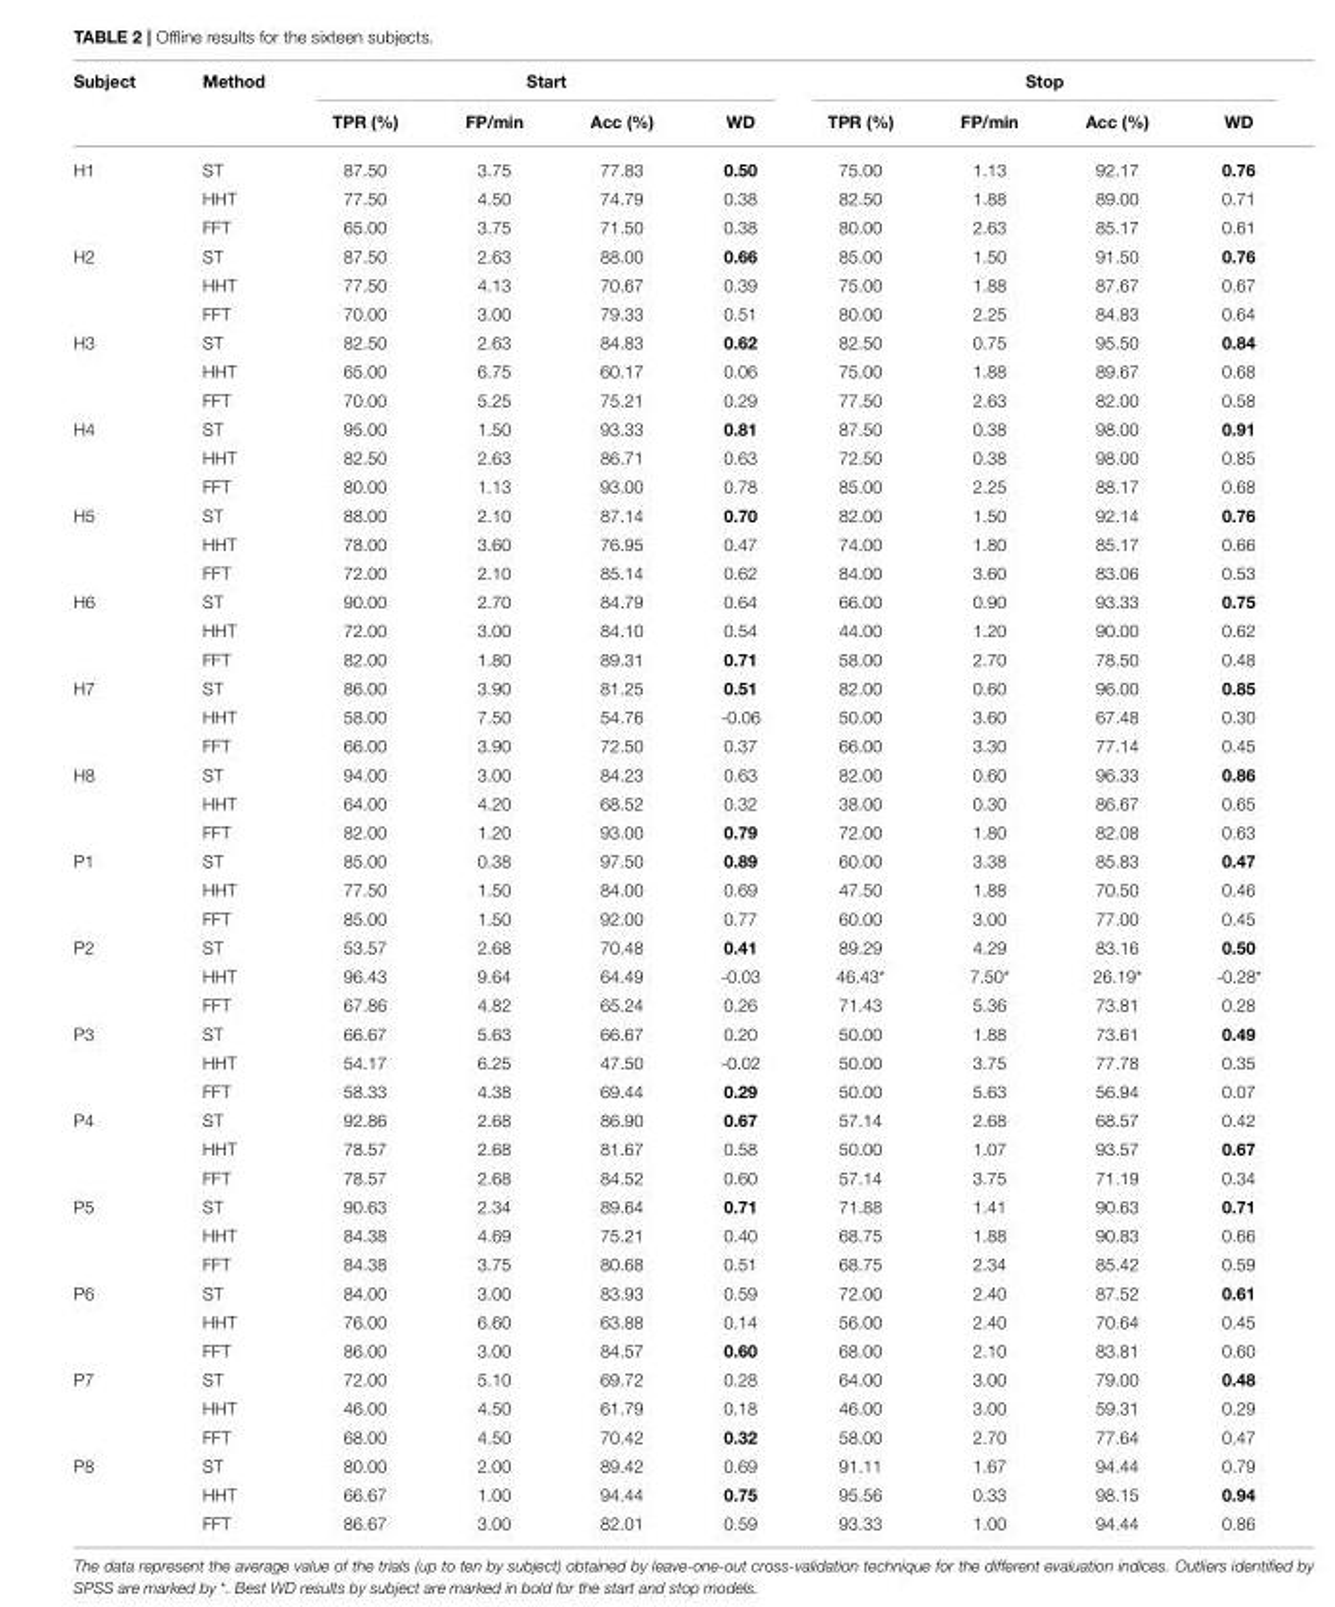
<table><thead><tr><td rowspan="2">Subject</td><td rowspan="2">Method</td><td colspan="4">Start</td><td colspan="4">Stop</td></tr><tr><td>TPR (%)</td><td>FP/min</td><td>Acc (%)</td><td>WD</td><td>TPR (%)</td><td>FP/min</td><td>Acc (%)</td><td>WD</td></tr></thead><tbody><tr><td rowspan="3">H1</td><td>ST</td><td>87.50</td><td>3.75</td><td>77.83</td><td>0.50</td><td>75.00</td><td>1.13</td><td>92.17</td><td>0.76</td></tr><tr><td>HHT</td><td>77.50</td><td>4.50</td><td>74.79</td><td>0.38</td><td>82.50</td><td>1.88</td><td>89.00</td><td>0.71</td></tr><tr><td>FFT</td><td>65.00</td><td>3.75</td><td>71.50</td><td>0.38</td><td>80.00</td><td>2.63</td><td>85.17</td><td>0.61</td></tr><tr><td rowspan="3">H2</td><td>ST</td><td>87.50</td><td>2.63</td><td>88.00</td><td>0.66</td><td>85.00</td><td>1.50</td><td>91.50</td><td>0.76</td></tr><tr><td>HHT</td><td>77.50</td><td>4.13</td><td>70.67</td><td>0.39</td><td>75.00</td><td>1.88</td><td>87.67</td><td>0.67</td></tr><tr><td>FFT</td><td>70.00</td><td>3.00</td><td>79.33</td><td>0.51</td><td>80.00</td><td>2.25</td><td>84.83</td><td>0.64</td></tr><tr><td rowspan="3">H3</td><td>ST</td><td>82.50</td><td>2.63</td><td>84.83</td><td>0.62</td><td>82.50</td><td>0.75</td><td>95.50</td><td>0.84</td></tr><tr><td>HHT</td><td>65.00</td><td>6.75</td><td>60.17</td><td>0.06</td><td>75.00</td><td>1.88</td><td>89.67</td><td>0.68</td></tr><tr><td>FFT</td><td>70.00</td><td>5.25</td><td>75.21</td><td>0.29</td><td>77.50</td><td>2.63</td><td>82.00</td><td>0.58</td></tr><tr><td rowspan="3">H4</td><td>ST</td><td>95.00</td><td>1.50</td><td>93.33</td><td>0.81</td><td>87.50</td><td>0.38</td><td>98.00</td><td>0.91</td></tr><tr><td>HHT</td><td>82.50</td><td>2.63</td><td>86.71</td><td>0.63</td><td>72.50</td><td>0.38</td><td>98.00</td><td>0.85</td></tr><tr><td>FFT</td><td>80.00</td><td>1.13</td><td>93.00</td><td>0.78</td><td>85.00</td><td>2.25</td><td>88.17</td><td>0.68</td></tr><tr><td rowspan="3">H5</td><td>ST</td><td>88.00</td><td>2.10</td><td>87.14</td><td>0.70</td><td>82.00</td><td>1.50</td><td>92.14</td><td>0.76</td></tr><tr><td>HHT</td><td>78.00</td><td>3.60</td><td>76.95</td><td>0.47</td><td>74.00</td><td>1.80</td><td>85.17</td><td>0.66</td></tr><tr><td>FFT</td><td>72.00</td><td>2.10</td><td>85.14</td><td>0.62</td><td>84.00</td><td>3.60</td><td>83.06</td><td>0.53</td></tr><tr><td rowspan="3">H6</td><td>ST</td><td>90.00</td><td>2.70</td><td>84.79</td><td>0.64</td><td>66.00</td><td>0.90</td><td>93.33</td><td>0.75</td></tr><tr><td>HHT</td><td>72.00</td><td>3.00</td><td>84.10</td><td>0.54</td><td>44.00</td><td>1.20</td><td>90.00</td><td>0.62</td></tr><tr><td>FFT</td><td>82.00</td><td>1.80</td><td>89.31</td><td>0.71</td><td>58.00</td><td>2.70</td><td>78.50</td><td>0.48</td></tr><tr><td rowspan="3">H7</td><td>ST</td><td>86.00</td><td>3.90</td><td>81.25</td><td>0.51</td><td>82.00</td><td>0.60</td><td>96.00</td><td>0.85</td></tr><tr><td>HHT</td><td>58.00</td><td>7.50</td><td>54.76</td><td>-0.06</td><td>50.00</td><td>3.60</td><td>67.48</td><td>0.30</td></tr><tr><td>FFT</td><td>66.00</td><td>3.90</td><td>72.50</td><td>0.37</td><td>66.00</td><td>3.30</td><td>77.14</td><td>0.45</td></tr><tr><td rowspan="3">H8</td><td>ST</td><td>94.00</td><td>3.00</td><td>84.23</td><td>0.63</td><td>82.00</td><td>0.60</td><td>96.33</td><td>0.86</td></tr><tr><td>HHT</td><td>64.00</td><td>4.20</td><td>68.52</td><td>0.32</td><td>38.00</td><td>0.30</td><td>86.67</td><td>0.65</td></tr><tr><td>FFT</td><td>82.00</td><td>1.20</td><td>93.00</td><td>0.79</td><td>72.00</td><td>1.80</td><td>82.08</td><td>0.63</td></tr><tr><td rowspan="3">P1</td><td>ST</td><td>85.00</td><td>0.38</td><td>97.50</td><td>0.89</td><td>60.00</td><td>3.38</td><td>85.83</td><td>0.47</td></tr><tr><td>HHT</td><td>77.50</td><td>1.50</td><td>84.00</td><td>0.69</td><td>47.50</td><td>1.88</td><td>70.50</td><td>0.46</td></tr><tr><td>FFT</td><td>85.00</td><td>1.50</td><td>92.00</td><td>0.77</td><td>60.00</td><td>3.00</td><td>77.00</td><td>0.45</td></tr><tr><td rowspan="3">P2</td><td>ST</td><td>53.57</td><td>2.68</td><td>70.48</td><td>0.41</td><td>89.29</td><td>4.29</td><td>83.16</td><td>0.50</td></tr><tr><td>HHT</td><td>96.43</td><td>9.64</td><td>64.49</td><td>-0.03</td><td>46.43*</td><td>7.50*</td><td>26.19*</td><td>-0.28*</td></tr><tr><td>FFT</td><td>67.86</td><td>4.82</td><td>65.24</td><td>0.26</td><td>71.43</td><td>5.36</td><td>73.81</td><td>0.28</td></tr><tr><td rowspan="3">P3</td><td>ST</td><td>66.67</td><td>5.63</td><td>66.67</td><td>0.20</td><td>50.00</td><td>1.88</td><td>73.61</td><td>0.49</td></tr><tr><td>HHT</td><td>54.17</td><td>6.25</td><td>47.50</td><td>-0.02</td><td>50.00</td><td>3.75</td><td>77.78</td><td>0.35</td></tr><tr><td>FFT</td><td>58.33</td><td>4.38</td><td>69.44</td><td>0.29</td><td>50.00</td><td>5.63</td><td>56.94</td><td>0.07</td></tr><tr><td rowspan="3">P4</td><td>ST</td><td>92.86</td><td>2.68</td><td>86.90</td><td>0.67</td><td>57.14</td><td>2.68</td><td>68.57</td><td>0.42</td></tr><tr><td>HHT</td><td>78.57</td><td>2.68</td><td>81.67</td><td>0.58</td><td>50.00</td><td>1.07</td><td>93.57</td><td>0.67</td></tr><tr><td>FFT</td><td>78.57</td><td>2.68</td><td>84.52</td><td>0.60</td><td>57.14</td><td>3.75</td><td>71.19</td><td>0.34</td></tr><tr><td rowspan="3">P5</td><td>ST</td><td>90.63</td><td>2.34</td><td>89.64</td><td>0.71</td><td>71.88</td><td>1.41</td><td>90.63</td><td>0.71</td></tr><tr><td>HHT</td><td>84.38</td><td>4.69</td><td>75.21</td><td>0.40</td><td>68.75</td><td>1.88</td><td>90.83</td><td>0.66</td></tr><tr><td>FFT</td><td>84.38</td><td>3.75</td><td>80.68</td><td>0.51</td><td>68.75</td><td>2.34</td><td>85.42</td><td>0.59</td></tr><tr><td rowspan="3">P6</td><td>ST</td><td>84.00</td><td>3.00</td><td>83.93</td><td>0.59</td><td>72.00</td><td>2.40</td><td>87.52</td><td>0.61</td></tr><tr><td>HHT</td><td>76.00</td><td>6.60</td><td>63.88</td><td>0.14</td><td>56.00</td><td>2.40</td><td>70.64</td><td>0.45</td></tr><tr><td>FFT</td><td>86.00</td><td>3.00</td><td>84.57</td><td>0.60</td><td>68.00</td><td>2.10</td><td>83.81</td><td>0.60</td></tr><tr><td rowspan="3">P7</td><td>ST</td><td>72.00</td><td>5.10</td><td>69.72</td><td>0.28</td><td>64.00</td><td>3.00</td><td>79.00</td><td>0.48</td></tr><tr><td>HHT</td><td>46.00</td><td>4.50</td><td>61.79</td><td>0.18</td><td>46.00</td><td>3.00</td><td>59.31</td><td>0.29</td></tr><tr><td>FFT</td><td>68.00</td><td>4.50</td><td>70.42</td><td>0.32</td><td>58.00</td><td>2.70</td><td>77.64</td><td>0.47</td></tr><tr><td rowspan="3">P8</td><td>ST</td><td>80.00</td><td>2.00</td><td>89.42</td><td>0.69</td><td>91.11</td><td>1.67</td><td>94.44</td><td>0.79</td></tr><tr><td>HHT</td><td>66.67</td><td>1.00</td><td>94.44</td><td>0.75</td><td>95.56</td><td>0.33</td><td>98.15</td><td>0.94</td></tr><tr><td>FFT</td><td>86.67</td><td>3.00</td><td>82.01</td><td>0.59</td><td>93.33</td><td>1.00</td><td>94.44</td><td>0.86</td></tr></tbody></table>